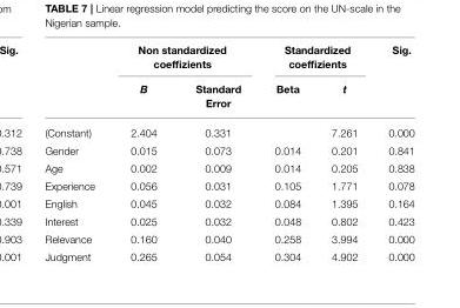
<table><thead><tr><td rowspan="2"></td><td colspan="2">Non standardized coeffizients</td><td colspan="2">Standardized coeffizients</td><td rowspan="2">Sig.</td></tr><tr><td>B</td><td>Standard Error</td><td>Beta</td><td>t</td></tr></thead><tbody><tr><td>(Constant)</td><td>2.404</td><td>0.331</td><td></td><td>7.261</td><td>0.000</td></tr><tr><td>Gender</td><td>0.015</td><td>0.073</td><td>0.014</td><td>0.201</td><td>0.841</td></tr><tr><td>Age</td><td>0.002</td><td>0.009</td><td>0.014</td><td>0.205</td><td>0.838</td></tr><tr><td>Experience</td><td>0.056</td><td>0.031</td><td>0.105</td><td>1.771</td><td>0.078</td></tr><tr><td>English</td><td>0.045</td><td>0.032</td><td>0.084</td><td>1.395</td><td>0.164</td></tr><tr><td>Interest</td><td>0.025</td><td>0.032</td><td>0.048</td><td>0.802</td><td>0.423</td></tr><tr><td>Relevance</td><td>0.160</td><td>0.040</td><td>0.258</td><td>3.994</td><td>0.000</td></tr><tr><td>Judgment</td><td>0.265</td><td>0.054</td><td>0.304</td><td>4.902</td><td>0.000</td></tr></tbody></table>